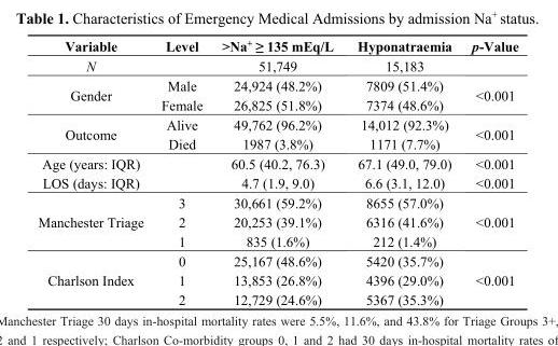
<table><thead><tr><td>Variable</td><td>Level</td><td>&gt;Na<sup>+</sup> ≥ 135 mEq/L</td><td>Hyponatraemia</td><td>p-Value</td></tr></thead><tbody><tr><td>N</td><td></td><td>51,749</td><td>15,183</td><td></td></tr><tr><td rowspan="2">Gender</td><td>Male</td><td>24,924 (48.2%)</td><td>7809 (51.4%)</td><td rowspan="2">&lt;0.001</td></tr><tr><td>Female</td><td>26,825 (51.8%)</td><td>7374 (48.6%)</td></tr><tr><td rowspan="2">Outcome</td><td>Alive</td><td>49,762 (96.2%)</td><td>14,012 (92.3%)</td><td rowspan="2">&lt;0.001</td></tr><tr><td>Died</td><td>1987 (3.8%)</td><td>1171 (7.7%)</td></tr><tr><td>Age (years: IQR)</td><td></td><td>60.5 (40.2, 76.3)</td><td>67.1 (49.0, 79.0)</td><td>&lt;0.001</td></tr><tr><td>LOS (days: IQR)</td><td></td><td>4.7 (1.9, 9.0)</td><td>6.6 (3.1, 12.0)</td><td>&lt;0.001</td></tr><tr><td rowspan="3">Manchester Triage</td><td>3</td><td>30,661 (59.2%)</td><td>8655 (57.0%)</td><td rowspan="3">&lt;0.001</td></tr><tr><td>2</td><td>20,253 (39.1%)</td><td>6316 (41.6%)</td></tr><tr><td>1</td><td>835 (1.6%)</td><td>212 (1.4%)</td></tr><tr><td rowspan="3">Charlson Index</td><td>0</td><td>25,167 (48.6%)</td><td>5420 (35.7%)</td><td rowspan="3">&lt;0.001</td></tr><tr><td>1</td><td>13,853 (26.8%)</td><td>4396 (29.0%)</td></tr><tr><td>2</td><td>12,729 (24.6%)</td><td>5367 (35.3%)</td></tr></tbody></table>